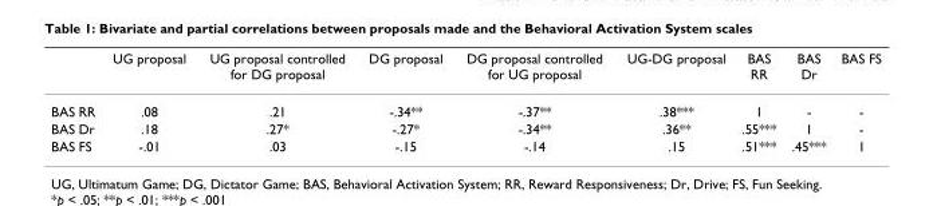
<table><thead><tr><td></td><td>UG proposal</td><td>UG proposal controlled for DG proposal</td><td>DG proposal</td><td>DG proposal controlled for UG proposal</td><td>UG-DG proposal</td><td>BAS RR</td><td>BAS Dr</td><td>BAS FS</td></tr></thead><tbody><tr><td>BAS RR</td><td>.08</td><td>.21</td><td>-.34**</td><td>-.37**</td><td>.38***</td><td>1</td><td>-</td><td>-</td></tr><tr><td>BAS Dr</td><td>.18</td><td>.27*</td><td>-.27*</td><td>-.34**</td><td>.36**</td><td>.55***</td><td>1</td><td>-</td></tr><tr><td>BAS FS</td><td>-.01</td><td>.03</td><td>-.15</td><td>-.14</td><td>.15</td><td>.51***</td><td>.45***</td><td>1</td></tr></tbody></table>